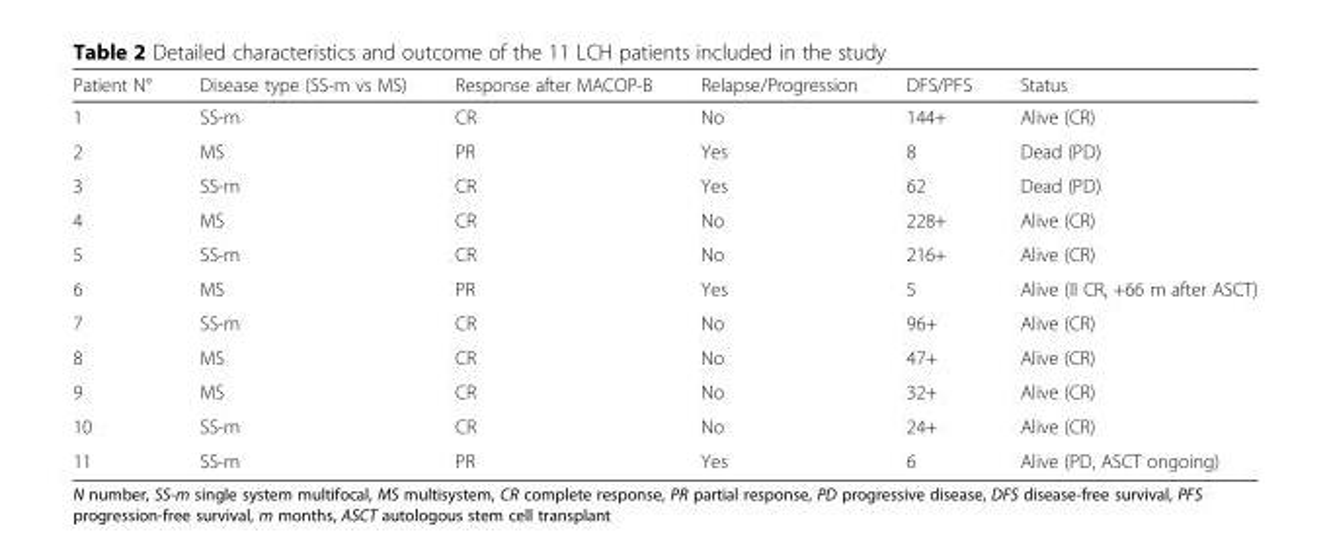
<table><thead><tr><td>Patient N°</td><td>Disease type (SS-m vs MS)</td><td>Response after MACOP-B</td><td>Relapse/Progression</td><td>DFS/PFS</td><td>Status</td></tr></thead><tbody><tr><td>1</td><td>SS-m</td><td>CR</td><td>No</td><td>144+</td><td>Alive (CR)</td></tr><tr><td>2</td><td>MS</td><td>PR</td><td>Yes</td><td>8</td><td>Dead (PD)</td></tr><tr><td>3</td><td>SS-m</td><td>CR</td><td>Yes</td><td>62</td><td>Dead (PD)</td></tr><tr><td>4</td><td>MS</td><td>CR</td><td>No</td><td>228+</td><td>Alive (CR)</td></tr><tr><td>5</td><td>SS-m</td><td>CR</td><td>No</td><td>216+</td><td>Alive (CR)</td></tr><tr><td>6</td><td>MS</td><td>PR</td><td>Yes</td><td>5</td><td>Alive (II CR, +66 m after ASCT)</td></tr><tr><td>7</td><td>SS-m</td><td>CR</td><td>No</td><td>96+</td><td>Alive (CR)</td></tr><tr><td>8</td><td>MS</td><td>CR</td><td>No</td><td>47+</td><td>Alive (CR)</td></tr><tr><td>9</td><td>MS</td><td>CR</td><td>No</td><td>32+</td><td>Alive (CR)</td></tr><tr><td>10</td><td>SS-m</td><td>CR</td><td>No</td><td>24+</td><td>Alive (CR)</td></tr><tr><td>11</td><td>SS-m</td><td>PR</td><td>Yes</td><td>6</td><td>Alive (PD, ASCT ongoing)</td></tr></tbody></table>